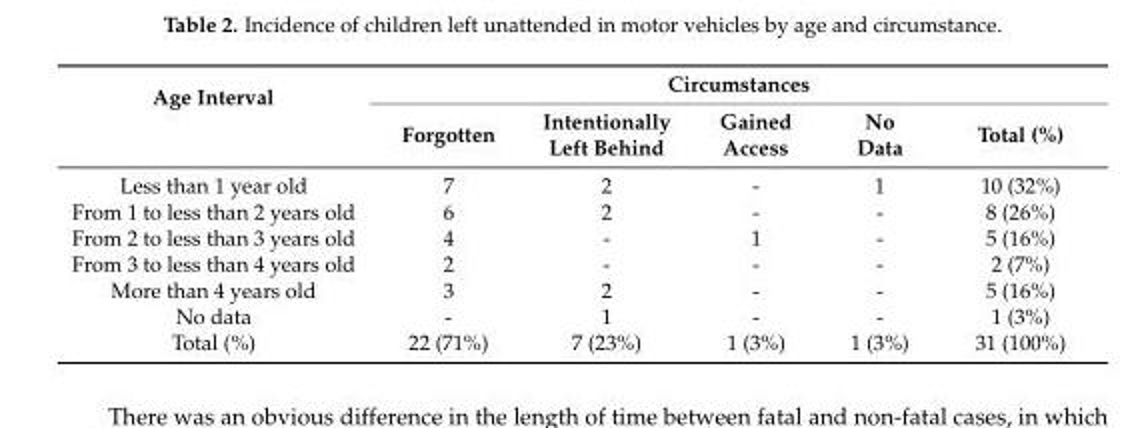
<table><thead><tr><td rowspan="2">Age Interval</td><td colspan="5">Circumstances</td></tr><tr><td>Forgotten</td><td>Intentionally Left Behind</td><td>Gained Access</td><td>No Data</td><td>Total (%)</td></tr></thead><tbody><tr><td>Less than 1 year old</td><td>7</td><td>2</td><td>-</td><td>1</td><td>10 (32%)</td></tr><tr><td>From 1 to less than 2 years old</td><td>6</td><td>2</td><td>-</td><td>-</td><td>8 (26%)</td></tr><tr><td>From 2 to less than 3 years old</td><td>4</td><td>-</td><td>1</td><td>-</td><td>5 (16%)</td></tr><tr><td>From 3 to less than 4 years old</td><td>2</td><td>-</td><td>-</td><td>-</td><td>2 (7%)</td></tr><tr><td>More than 4 years old</td><td>3</td><td>2</td><td>-</td><td>-</td><td>5 (16%)</td></tr><tr><td>No data</td><td>-</td><td>1</td><td>-</td><td>-</td><td>1 (3%)</td></tr><tr><td>Total (%)</td><td>22 (71%)</td><td>7 (23%)</td><td>1 (3%)</td><td>1 (3%)</td><td>31 (100%)</td></tr></tbody></table>